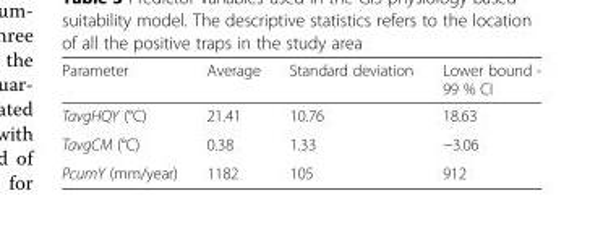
<table><thead><tr><td>Parameter</td><td>Average</td><td>Standard deviation</td><td>Lower bound - 99 % CI</td></tr></thead><tbody><tr><td>TavgHQY (°C)</td><td>21.41</td><td>10.76</td><td>18.63</td></tr><tr><td>TavgCM (°C)</td><td>0.38</td><td>1.33</td><td>−3.06</td></tr><tr><td>PcumY (mm/year)</td><td>1182</td><td>105</td><td>912</td></tr></tbody></table>